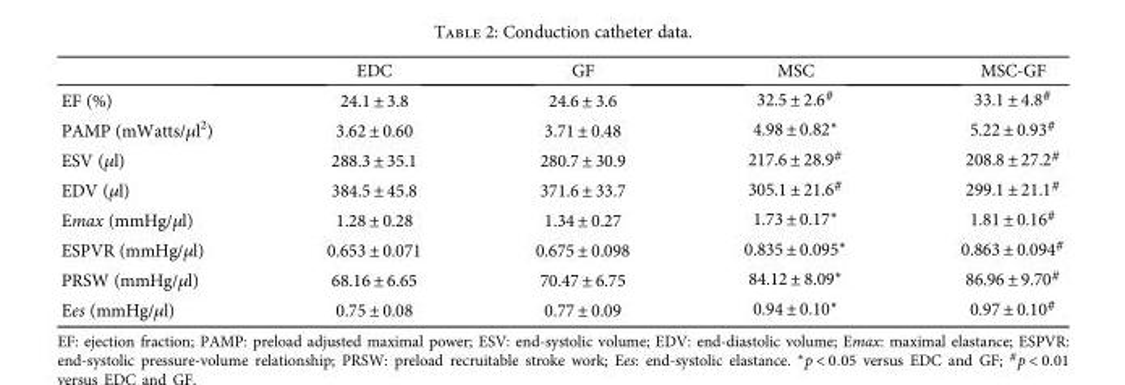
<table><thead><tr><td></td><td>EDC</td><td>GF</td><td>MSC</td><td>MSC-GF</td></tr></thead><tbody><tr><td>EF (%)</td><td>24.1 ± 3.8</td><td>24.6 ± 3.6</td><td>32.5 ± 2.6<sup>#</sup></td><td>33.1 ± 4.8<sup>#</sup></td></tr><tr><td>PAMP (mWatts/μl<sup>2</sup>)</td><td>3.62 ± 0.60</td><td>3.71 ± 0.48</td><td>4.98 ± 0.82∗</td><td>5.22 ± 0.93<sup>#</sup></td></tr><tr><td>ESV (μl)</td><td>288.3 ± 35.1</td><td>280.7 ± 30.9</td><td>217.6 ± 28.9<sup>#</sup></td><td>208.8 ± 27.2<sup>#</sup></td></tr><tr><td>EDV (μl)</td><td>384.5 ± 45.8</td><td>371.6 ± 33.7</td><td>305.1 ± 21.6<sup>#</sup></td><td>299.1 ± 21.1<sup>#</sup></td></tr><tr><td>Emax (mmHg/μl)</td><td>1.28 ± 0.28</td><td>1.34 ± 0.27</td><td>1.73 ± 0.17∗</td><td>1.81 ± 0.16<sup>#</sup></td></tr><tr><td>ESPVR (mmHg/μl)</td><td>0.653 ± 0.071</td><td>0.675 ± 0.098</td><td>0.835 ± 0.095∗</td><td>0.863 ± 0.094<sup>#</sup></td></tr><tr><td>PRSW (mmHg/μl)</td><td>68.16 ± 6.65</td><td>70.47 ± 6.75</td><td>84.12 ± 8.09∗</td><td>86.96 ± 9.70<sup>#</sup></td></tr><tr><td>Ees (mmHg/μl)</td><td>0.75 ± 0.08</td><td>0.77 ± 0.09</td><td>0.94 ± 0.10∗</td><td>0.97 ± 0.10<sup>#</sup></td></tr></tbody></table>